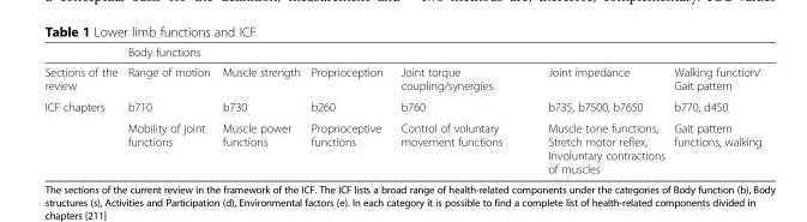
<table><thead><tr><td rowspan="2">Sections of the review</td><td colspan="6">Body functions</td></tr><tr><td>Range of motion</td><td>Muscle strength</td><td>Proprioception</td><td>Joint torque coupling/synergies</td><td>Joint impedance</td><td>Walking function/ Gait pattern</td></tr></thead><tbody><tr><td rowspan="2">ICF chapters</td><td>b710</td><td>b730</td><td>b260</td><td>b760</td><td>b735, b7500, b7650</td><td>b770, d450</td></tr><tr><td>Mobility of joint functions</td><td>Muscle power functions</td><td>Proprioceptive functions</td><td>Control of voluntary movement functions</td><td>Muscle tone functions, Stretch motor reflex, Involuntary contractions of muscles</td><td>Gait pattern functions, walking</td></tr></tbody></table>